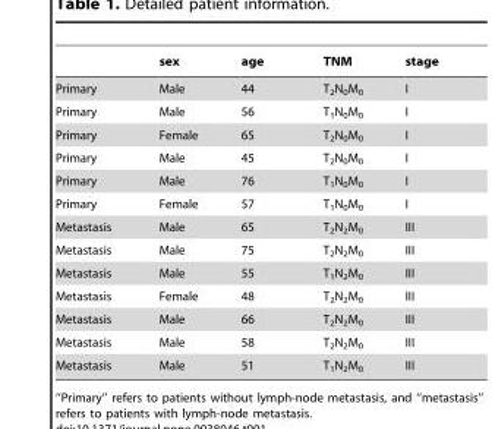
<table><thead><tr><td></td><td>sex</td><td>age</td><td>TNM</td><td>stage</td></tr></thead><tbody><tr><td>Primary</td><td>Male</td><td>44</td><td>T<sub>2</sub>N<sub>0</sub>M<sub>0</sub></td><td>I</td></tr><tr><td>Primary</td><td>Male</td><td>56</td><td>T<sub>1</sub>N<sub>0</sub>M<sub>0</sub></td><td>I</td></tr><tr><td>Primary</td><td>Female</td><td>65</td><td>T<sub>2</sub>N<sub>0</sub>M<sub>0</sub></td><td>I</td></tr><tr><td>Primary</td><td>Male</td><td>45</td><td>T<sub>2</sub>N<sub>0</sub>M<sub>0</sub></td><td>I</td></tr><tr><td>Primary</td><td>Male</td><td>76</td><td>T<sub>1</sub>N<sub>0</sub>M<sub>0</sub></td><td>I</td></tr><tr><td>Primary</td><td>Female</td><td>57</td><td>T<sub>1</sub>N<sub>0</sub>M<sub>0</sub></td><td>I</td></tr><tr><td>Metastasis</td><td>Male</td><td>65</td><td>T<sub>2</sub>N<sub>2</sub>M<sub>0</sub></td><td>III</td></tr><tr><td>Metastasis</td><td>Male</td><td>75</td><td>T<sub>2</sub>N<sub>2</sub>M<sub>0</sub></td><td>III</td></tr><tr><td>Metastasis</td><td>Male</td><td>55</td><td>T<sub>1</sub>N<sub>2</sub>M<sub>0</sub></td><td>III</td></tr><tr><td>Metastasis</td><td>Female</td><td>48</td><td>T<sub>2</sub>N<sub>2</sub>M<sub>0</sub></td><td>III</td></tr><tr><td>Metastasis</td><td>Male</td><td>66</td><td>T<sub>2</sub>N<sub>2</sub>M<sub>0</sub></td><td>III</td></tr><tr><td>Metastasis</td><td>Male</td><td>58</td><td>T<sub>2</sub>N<sub>2</sub>M<sub>0</sub></td><td>III</td></tr><tr><td>Metastasis</td><td>Male</td><td>51</td><td>T<sub>1</sub>N<sub>2</sub>M<sub>0</sub></td><td>III</td></tr></tbody></table>